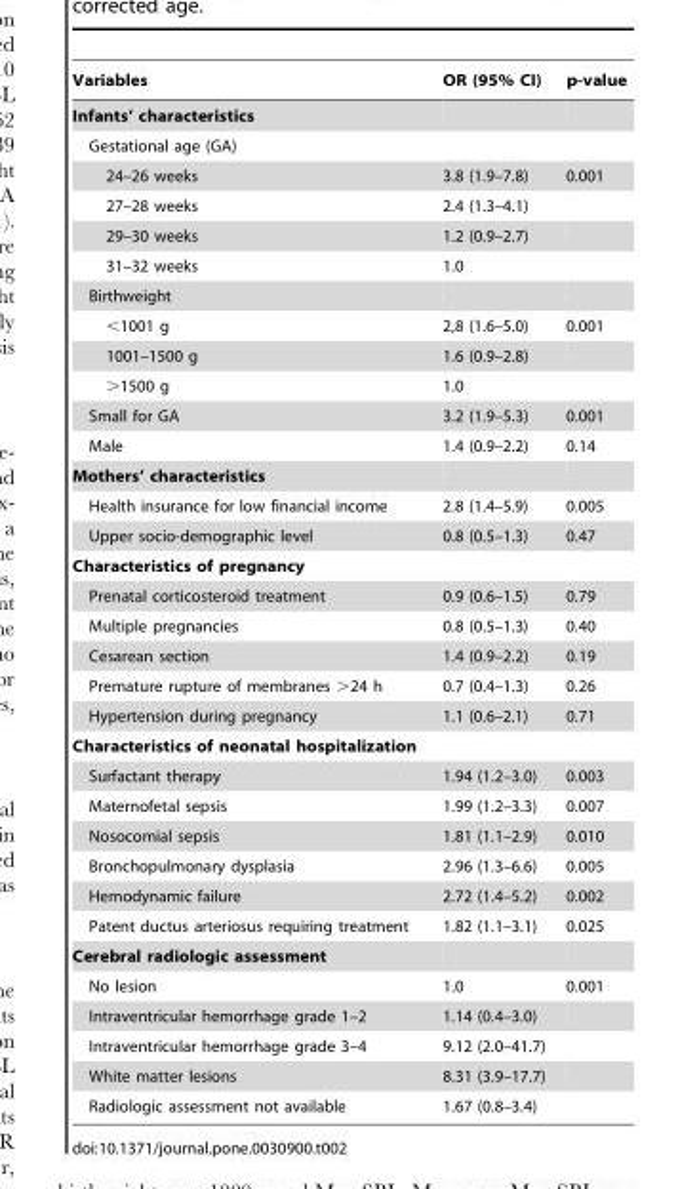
<table><thead><tr><td>Variables</td><td>OR (95% CI)</td><td>p-value</td></tr></thead><tbody><tr><td colspan="3">Infants’ characteristics</td></tr><tr><td colspan="3">Gestational age (GA)</td></tr><tr><td>24–26 weeks</td><td>3.8 (1.9–7.8)</td><td>0.001</td></tr><tr><td>27–28 weeks</td><td>2.4 (1.3–4.1)</td><td></td></tr><tr><td>29–30 weeks</td><td>1.2 (0.9–2.7)</td><td></td></tr><tr><td>31–32 weeks</td><td>1.0</td><td></td></tr><tr><td colspan="3">Birthweight</td></tr><tr><td>&lt;1001 g</td><td>2,8 (1.6–5.0)</td><td>0.001</td></tr><tr><td>1001–1500 g</td><td>1.6 (0.9–2.8)</td><td></td></tr><tr><td>&gt;1500 g</td><td>1.0</td><td></td></tr><tr><td>Small for GA</td><td>3.2 (1.9–5.3)</td><td>0.001</td></tr><tr><td>Male</td><td>1.4 (0.9–2.2)</td><td>0.14</td></tr><tr><td colspan="3">Mothers’ characteristics</td></tr><tr><td>Health insurance for low financial income</td><td>2.8 (1.4–5.9)</td><td>0.005</td></tr><tr><td>Upper socio-demographic level</td><td>0.8 (0.5–1.3)</td><td>0.47</td></tr><tr><td colspan="3">Characteristics of pregnancy</td></tr><tr><td>Prenatal corticosteroid treatment</td><td>0.9 (0.6–1.5)</td><td>0.79</td></tr><tr><td>Multiple pregnancies</td><td>0.8 (0.5–1.3)</td><td>0.40</td></tr><tr><td>Cesarean section</td><td>1.4 (0.9–2.2)</td><td>0.19</td></tr><tr><td>Premature rupture of membranes &gt;24 h</td><td>0.7 (0.4–1.3)</td><td>0.26</td></tr><tr><td>Hypertension during pregnancy</td><td>1.1 (0.6–2.1)</td><td>0.71</td></tr><tr><td colspan="3">Characteristics of neonatal hospitalization</td></tr><tr><td>Surfactant therapy</td><td>1.94 (1.2–3.0)</td><td>0.003</td></tr><tr><td>Maternofetal sepsis</td><td>1.99 (1.2–3.3)</td><td>0.007</td></tr><tr><td>Nosocomial sepsis</td><td>1.81 (1.1–2.9)</td><td>0.010</td></tr><tr><td>Bronchopulmonary dysplasia</td><td>2.96 (1.3–6.6)</td><td>0.005</td></tr><tr><td>Hemodynamic failure</td><td>2.72 (1.4–5.2)</td><td>0.002</td></tr><tr><td>Patent ductus arteriosus requiring treatment</td><td>1.82 (1.1–3.1)</td><td>0.025</td></tr><tr><td colspan="3">Cerebral radiologic assessment</td></tr><tr><td>No lesion</td><td>1.0</td><td>0.001</td></tr><tr><td>Intraventricular hemorrhage grade 1–2</td><td>1.14 (0.4–3.0)</td><td></td></tr><tr><td>Intraventricular hemorrhage grade 3–4</td><td>9.12 (2.0–41.7)</td><td></td></tr><tr><td>White matter lesions</td><td>8.31 (3.9–17.7)</td><td></td></tr><tr><td>Radiologic assessment not available</td><td>1.67 (0.8–3.4)</td><td></td></tr></tbody></table>